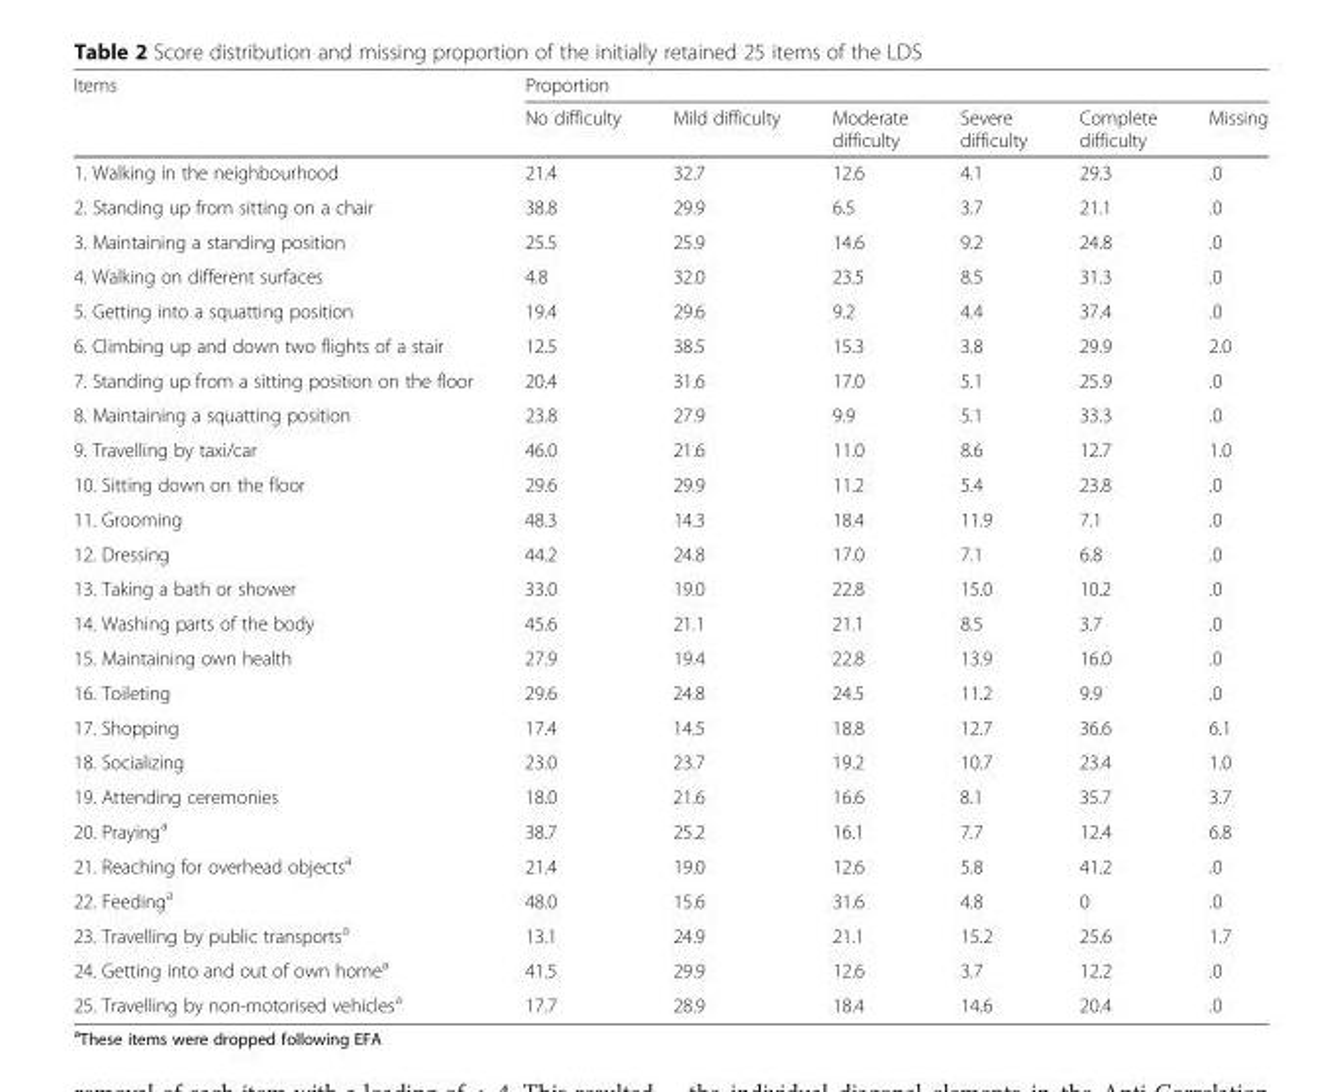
<table><thead><tr><td rowspan="2">Items</td><td colspan="6">Proportion</td></tr><tr><td>No difficulty</td><td>Mild difficulty</td><td>Moderate difficulty</td><td>Severe difficulty</td><td>Complete difficulty</td><td>Missing</td></tr></thead><tbody><tr><td>1. Walking in the neighbourhood</td><td>21.4</td><td>32.7</td><td>12.6</td><td>4.1</td><td>29.3</td><td>.0</td></tr><tr><td>2. Standing up from sitting on a chair</td><td>38.8</td><td>29.9</td><td>6.5</td><td>3.7</td><td>21.1</td><td>.0</td></tr><tr><td>3. Maintaining a standing position</td><td>25.5</td><td>25.9</td><td>14.6</td><td>9.2</td><td>24.8</td><td>.0</td></tr><tr><td>4. Walking on different surfaces</td><td>4.8</td><td>32.0</td><td>23.5</td><td>8.5</td><td>31.3</td><td>.0</td></tr><tr><td>5. Getting into a squatting position</td><td>19.4</td><td>29.6</td><td>9.2</td><td>4.4</td><td>37.4</td><td>.0</td></tr><tr><td>6. Climbing up and down two flights of a stair</td><td>12.5</td><td>38.5</td><td>15.3</td><td>3.8</td><td>29.9</td><td>2.0</td></tr><tr><td>7. Standing up from a sitting position on the floor</td><td>20.4</td><td>31.6</td><td>17.0</td><td>5.1</td><td>25.9</td><td>.0</td></tr><tr><td>8. Maintaining a squatting position</td><td>23.8</td><td>27.9</td><td>9.9</td><td>5.1</td><td>33.3</td><td>.0</td></tr><tr><td>9. Travelling by taxi/car</td><td>46.0</td><td>21.6</td><td>11.0</td><td>8.6</td><td>12.7</td><td>1.0</td></tr><tr><td>10. Sitting down on the floor</td><td>29.6</td><td>29.9</td><td>11.2</td><td>5.4</td><td>23.8</td><td>.0</td></tr><tr><td>11. Grooming</td><td>48.3</td><td>14.3</td><td>18.4</td><td>11.9</td><td>7.1</td><td>.0</td></tr><tr><td>12. Dressing</td><td>44.2</td><td>24.8</td><td>17.0</td><td>7.1</td><td>6.8</td><td>.0</td></tr><tr><td>13. Taking a bath or shower</td><td>33.0</td><td>19.0</td><td>22.8</td><td>15.0</td><td>10.2</td><td>.0</td></tr><tr><td>14. Washing parts of the body</td><td>45.6</td><td>21.1</td><td>21.1</td><td>8.5</td><td>3.7</td><td>.0</td></tr><tr><td>15. Maintaining own health</td><td>27.9</td><td>19.4</td><td>22.8</td><td>13.9</td><td>16.0</td><td>.0</td></tr><tr><td>16. Toileting</td><td>29.6</td><td>24.8</td><td>24.5</td><td>11.2</td><td>9.9</td><td>.0</td></tr><tr><td>17. Shopping</td><td>17.4</td><td>14.5</td><td>18.8</td><td>12.7</td><td>36.6</td><td>6.1</td></tr><tr><td>18. Socializing</td><td>23.0</td><td>23.7</td><td>19.2</td><td>10.7</td><td>23.4</td><td>1.0</td></tr><tr><td>19. Attending ceremonies</td><td>18.0</td><td>21.6</td><td>16.6</td><td>8.1</td><td>35.7</td><td>3.7</td></tr><tr><td>20. Praying<sup>a</sup></td><td>38.7</td><td>25.2</td><td>16.1</td><td>7.7</td><td>12.4</td><td>6.8</td></tr><tr><td>21. Reaching for overhead objects<sup>a</sup></td><td>21.4</td><td>19.0</td><td>12.6</td><td>5.8</td><td>41.2</td><td>.0</td></tr><tr><td>22. Feeding<sup>a</sup></td><td>48.0</td><td>15.6</td><td>31.6</td><td>4.8</td><td>0</td><td>.0</td></tr><tr><td>23. Travelling by public transports<sup>a</sup></td><td>13.1</td><td>24.9</td><td>21.1</td><td>15.2</td><td>25.6</td><td>1.7</td></tr><tr><td>24. Getting into and out of own home<sup>a</sup></td><td>41.5</td><td>29.9</td><td>12.6</td><td>3.7</td><td>12.2</td><td>.0</td></tr><tr><td>25. Travelling by non-motorised vehicles<sup>a</sup></td><td>17.7</td><td>28.9</td><td>18.4</td><td>14.6</td><td>20.4</td><td>.0</td></tr></tbody></table>